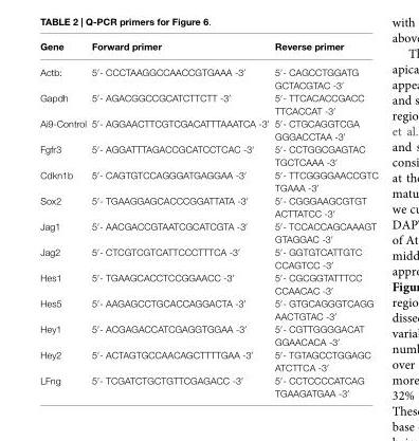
<table><thead><tr><td>Gene</td><td>Forward primer</td><td>Reverse primer</td></tr></thead><tbody><tr><td rowspan="2">Actb:</td><td>5′- CCCTAAGGCCAACCGTGAAA -3′</td><td>5′- CAGCCTGGATG</td></tr><tr><td></td><td>GCTACGTAC -3′</td></tr><tr><td rowspan="2">Gapdh</td><td>5′- AGACGGCCGCATCTTCTT -3′</td><td>5′- TTCACACCGACC</td></tr><tr><td></td><td>TTCACCAT -3′</td></tr><tr><td rowspan="2">Ai9-Control</td><td>5′- AGGAACTTCGTCGACATTTAAATCA -3′</td><td>5′- CTGCAGGTCGA</td></tr><tr><td></td><td>GGGACCTAA -3′</td></tr><tr><td rowspan="2">Fgfr3</td><td>5′- AGGATTTAGACCGCATCCTCAC -3′</td><td>5′- CCTGGCGAGTAC</td></tr><tr><td></td><td>TGCTCAAA -3′</td></tr><tr><td rowspan="2">Cdkn1b</td><td>5′- CAGTGTCCAGGGATGAGGAA -3′</td><td>5′- TTCGGGGAACCGTC</td></tr><tr><td></td><td>TGAAA -3′</td></tr><tr><td rowspan="2">Sox2</td><td>5′- TGAAGGAGCACCCGGATTATA -3′</td><td>5′- CGGGAAGCGTGT</td></tr><tr><td></td><td>ACTTATCC -3′</td></tr><tr><td rowspan="2">Jag1</td><td>5′- AACGACCGTAATCGCATCGTA -3′</td><td>5′- TCCACCAGCAAAGT</td></tr><tr><td></td><td>GTAGGAC -3′</td></tr><tr><td rowspan="2">Jag2</td><td>5′- CTCGTCGTCATTCCCTTTCA -3′</td><td>5′- GGTGTCATTGTC</td></tr><tr><td></td><td>CCAGTCC -3′</td></tr><tr><td rowspan="2">Hes1</td><td>5′- TGAAGCACCTCCGGAACC -3′</td><td>5′- CGCGGTATTTCC</td></tr><tr><td></td><td>CCAACAC -3′</td></tr><tr><td rowspan="2">Hes5</td><td>5′- AAGAGCCTGCACCAGGACTA -3′</td><td>5′- GTGCAGGGTCAGG</td></tr><tr><td></td><td>AACTGTAC -3′</td></tr><tr><td rowspan="2">Hey1</td><td>5′- ACGAGACCATCGAGGTGGAA -3′</td><td>5′- CGTTGGGGACAT</td></tr><tr><td></td><td>GGAACACA -3′</td></tr><tr><td rowspan="2">Hey2</td><td>5′- ACTAGTGCCAACAGCTTTTGAA -3′</td><td>5′- TGTAGCCTGGAGC</td></tr><tr><td></td><td>ATCTTCA -3′</td></tr><tr><td rowspan="2">LFng</td><td>5′- TCGATCTGCTGTTCGAGACC -3′</td><td>5′- CCTCCCCATCAG</td></tr><tr><td></td><td>TGAAGATGAA -3′</td></tr></tbody></table>